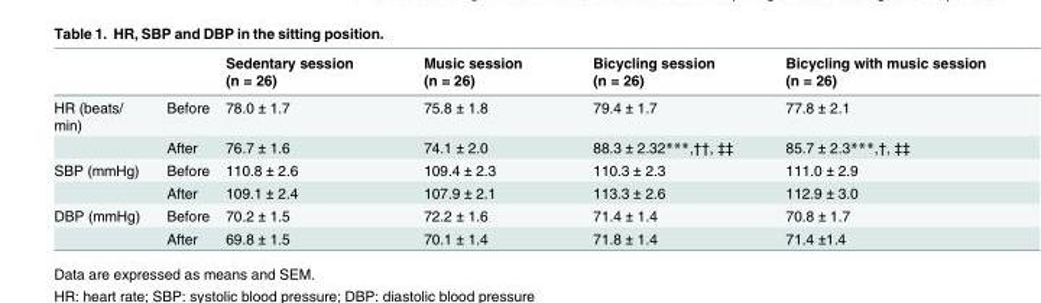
<table><thead><tr><td></td><td></td><td>Sedentary session (n = 26)</td><td>Music session (n = 26)</td><td>Bicycling session (n = 26)</td><td>Bicycling with music session (n = 26)</td></tr></thead><tbody><tr><td rowspan="2">HR (beats/ min)</td><td>Before</td><td>78.0 ± 1.7</td><td>75.8 ± 1.8</td><td>79.4 ± 1.7</td><td>77.8 ± 2.1</td></tr><tr><td>After</td><td>76.7 ± 1.6</td><td>74.1 ± 2.0</td><td>88.3 ± 2.32***,††, ‡‡</td><td>85.7 ± 2.3***,†, ‡‡</td></tr><tr><td rowspan="2">SBP (mmHg)</td><td>Before</td><td>110.8 ± 2.6</td><td>109.4 ± 2.3</td><td>110.3 ± 2.3</td><td>111.0 ± 2.9</td></tr><tr><td>After</td><td>109.1 ± 2.4</td><td>107.9 ± 2.1</td><td>113.3 ± 2.6</td><td>112.9 ± 3.0</td></tr><tr><td rowspan="2">DBP (mmHg)</td><td>Before</td><td>70.2 ± 1.5</td><td>72.2 ± 1.6</td><td>71.4 ± 1.4</td><td>70.8 ± 1.7</td></tr><tr><td>After</td><td>69.8 ± 1.5</td><td>70.1 ± 1.4</td><td>71.8 ± 1.4</td><td>71.4 ±1.4</td></tr></tbody></table>